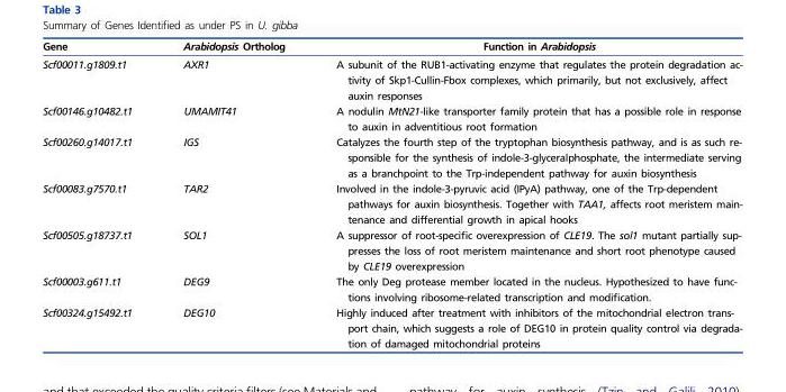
<table><thead><tr><td>Gene</td><td>Arabidopsis Ortholog</td><td>Function in Arabidopsis</td></tr></thead><tbody><tr><td>Scf00011.g1809.t1</td><td>AXR1</td><td>A subunit of the RUB1-activating enzyme that regulates the protein degradation ac- tivity of Skp1-Cullin-Fbox complexes, which primarily, but not exclusively, affect auxin responses</td></tr><tr><td>Scf00146.g10482.t1</td><td>UMAMIT41</td><td>A nodulin MtN21-like transporter family protein that has a possible role in response to auxin in adventitious root formation</td></tr><tr><td>Scf00260.g14017.t1</td><td>IGS</td><td>Catalyzes the fourth step of the tryptophan biosynthesis pathway, and is as such re- sponsible for the synthesis of indole-3-glyceralphosphate, the intermediate serving as a branchpoint to the Trp-independent pathway for auxin biosynthesis</td></tr><tr><td>Scf00083.g7570.t1</td><td>TAR2</td><td>Involved in the indole-3-pyruvic acid (IPyA) pathway, one of the Trp-dependent pathways for auxin biosynthesis. Together with TAA1, affects root meristem main- tenance and differential growth in apical hooks</td></tr><tr><td>Scf00505.g18737.t1</td><td>SOL1</td><td>A suppressor of root-specific overexpression of CLE19. The sol1 mutant partially sup- presses the loss of root meristem maintenance and short root phenotype caused by CLE19 overexpression</td></tr><tr><td>Scf00003.g611.t1</td><td>DEG9</td><td>The only Deg protease member located in the nucleus. Hypothesized to have func- tions involving ribosome-related transcription and modification.</td></tr><tr><td>Scf00324.g15492.t1</td><td>DEG10</td><td>Highly induced after treatment with inhibitors of the mitochondrial electron trans- port chain, which suggests a role of DEG10 in protein quality control via degrada- tion of damaged mitochondrial proteins</td></tr></tbody></table>